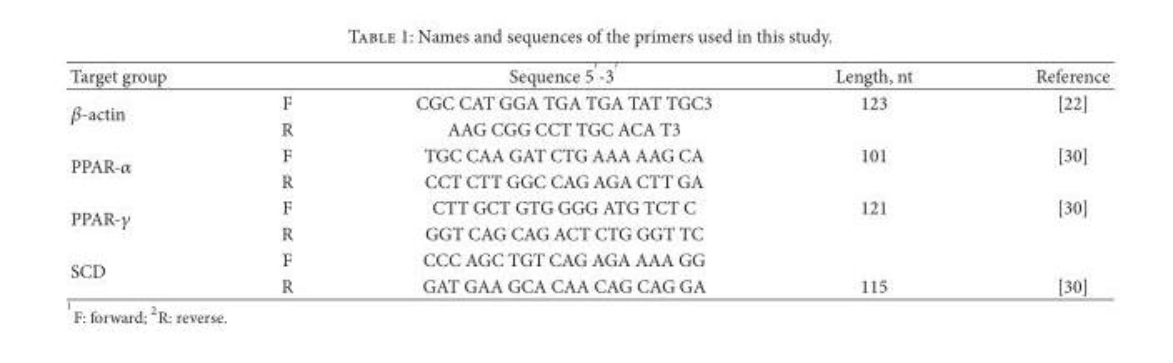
<table><thead><tr><td>Target group</td><td></td><td>Sequence 5′-3′</td><td>Length, nt</td><td>Reference</td></tr></thead><tbody><tr><td rowspan="2">𝛽𝛽-actin</td><td>F</td><td>CGC CAT GGA TGA TGA TAT TGC3</td><td>123</td><td>[22]</td></tr><tr><td>R</td><td>AAG CGG CCT TGC ACA T3</td><td></td><td></td></tr><tr><td rowspan="2">PPAR-𝛼𝛼</td><td>F</td><td>TGC CAA GAT CTG AAA AAG CA</td><td>101</td><td>[30]</td></tr><tr><td>R</td><td>CCT CTT GGC CAG AGA CTT GA</td><td></td><td></td></tr><tr><td rowspan="2">PPAR-𝛾𝛾</td><td>F</td><td>CTT GCT GTG GGG ATG TCT C</td><td>121</td><td>[30]</td></tr><tr><td>R</td><td>GGT CAG CAG ACT CTG GGT TC</td><td></td><td></td></tr><tr><td rowspan="2">SCD</td><td>F</td><td>CCC AGC TGT CAG AGA AAA GG</td><td></td><td></td></tr><tr><td>R</td><td>GAT GAA GCA CAA CAG CAG GA</td><td>115</td><td>[30]</td></tr></tbody></table>